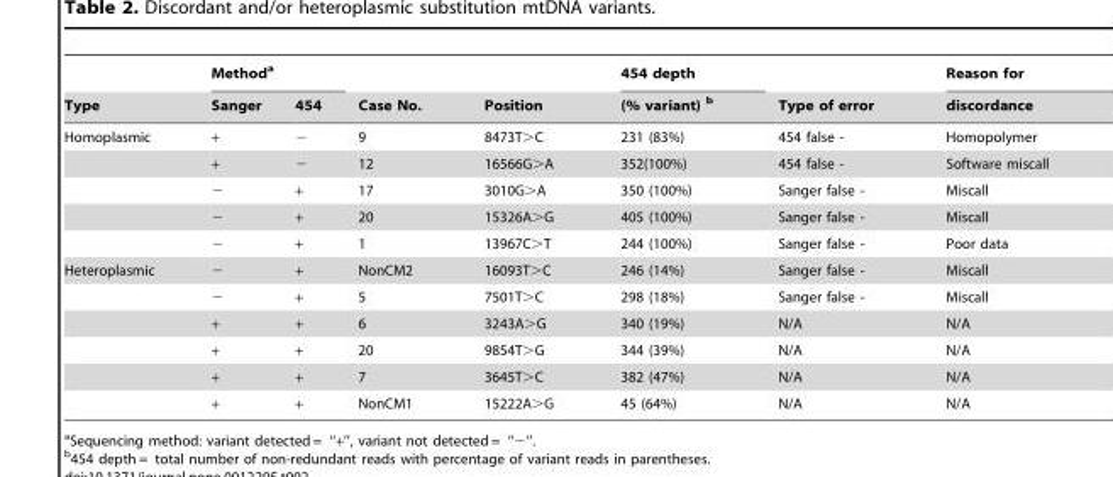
<table><thead><tr><td rowspan="2">Type</td><td colspan="2">Method<sup>a</sup></td><td rowspan="2">Case No.</td><td rowspan="2">Position</td><td rowspan="2">454 depth (% variant) b</td><td rowspan="2">Type of error</td><td rowspan="2">Reason for discordance</td></tr><tr><td>Sanger</td><td>454</td></tr></thead><tbody><tr><td rowspan="5">Homoplasmic</td><td>+</td><td>−</td><td>9</td><td>8473T&gt;C</td><td>231 (83%)</td><td>454 false -</td><td>Homopolymer</td></tr><tr><td>+</td><td>−</td><td>12</td><td>16566G&gt;A</td><td>352(100%)</td><td>454 false -</td><td>Software miscall</td></tr><tr><td>−</td><td>+</td><td>17</td><td>3010G&gt;A</td><td>350 (100%)</td><td>Sanger false -</td><td>Miscall</td></tr><tr><td>−</td><td>+</td><td>20</td><td>15326A&gt;G</td><td>405 (100%)</td><td>Sanger false -</td><td>Miscall</td></tr><tr><td>−</td><td>+</td><td>1</td><td>13967C&gt;T</td><td>244 (100%)</td><td>Sanger false -</td><td>Poor data</td></tr><tr><td rowspan="6">Heteroplasmic</td><td>−</td><td>+</td><td>NonCM2</td><td>16093T&gt;C</td><td>246 (14%)</td><td>Sanger false -</td><td>Miscall</td></tr><tr><td>−</td><td>+</td><td>5</td><td>7501T&gt;C</td><td>298 (18%)</td><td>Sanger false -</td><td>Miscall</td></tr><tr><td>+</td><td>+</td><td>6</td><td>3243A&gt;G</td><td>340 (19%)</td><td>N/A</td><td>N/A</td></tr><tr><td>+</td><td>+</td><td>20</td><td>9854T&gt;G</td><td>344 (39%)</td><td>N/A</td><td>N/A</td></tr><tr><td>+</td><td>+</td><td>7</td><td>3645T&gt;C</td><td>382 (47%)</td><td>N/A</td><td>N/A</td></tr><tr><td>+</td><td>+</td><td>NonCM1</td><td>15222A&gt;G</td><td>45 (64%)</td><td>N/A</td><td>N/A</td></tr></tbody></table>